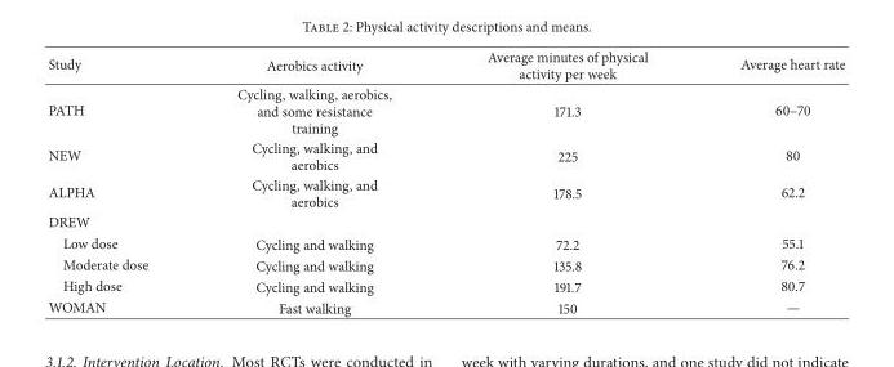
<table><thead><tr><td>Study</td><td>Aerobics activity</td><td>Average minutes of physical activity per week</td><td>Average heart rate</td></tr></thead><tbody><tr><td>PATH</td><td>Cycling, walking, aerobics, and some resistance training</td><td>171.3</td><td>60–70</td></tr><tr><td>NEW</td><td>Cycling, walking, and aerobics</td><td>225</td><td>80</td></tr><tr><td>ALPHA</td><td>Cycling, walking, and aerobics</td><td>178.5</td><td>62.2</td></tr><tr><td colspan="4">DREW</td></tr><tr><td>Low dose</td><td>Cycling and walking</td><td>72.2</td><td>55.1</td></tr><tr><td>Moderate dose</td><td>Cycling and walking</td><td>135.8</td><td>76.2</td></tr><tr><td>High dose</td><td>Cycling and walking</td><td>191.7</td><td>80.7</td></tr><tr><td>WOMAN</td><td>Fast walking</td><td>150</td><td>—</td></tr></tbody></table>